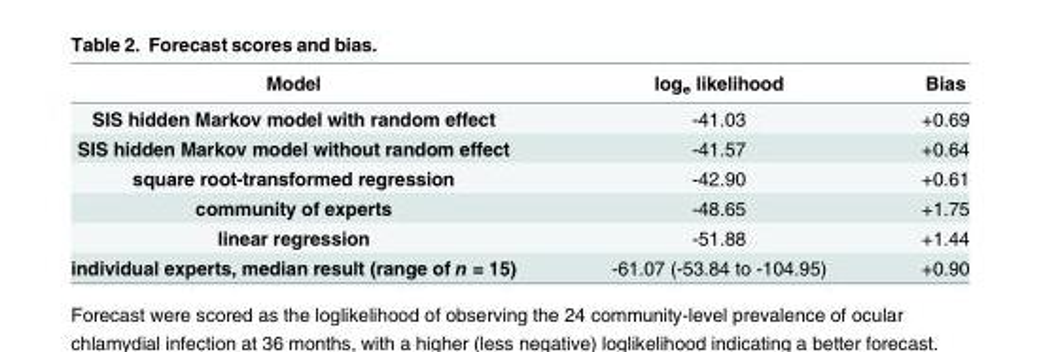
<table><thead><tr><td>Model</td><td>log<sub>e</sub> likelihood</td><td>Bias</td></tr></thead><tbody><tr><td>SIS hidden Markov model with random effect</td><td>-41.03</td><td>+0.69</td></tr><tr><td>SIS hidden Markov model without random effect</td><td>-41.57</td><td>+0.64</td></tr><tr><td>square root-transformed regression</td><td>-42.90</td><td>+0.61</td></tr><tr><td>community of experts</td><td>-48.65</td><td>+1.75</td></tr><tr><td>linear regression</td><td>-51.88</td><td>+1.44</td></tr><tr><td>individual experts, median result (range of n = 15)</td><td>-61.07 (-53.84 to -104.95)</td><td>+0.90</td></tr></tbody></table>